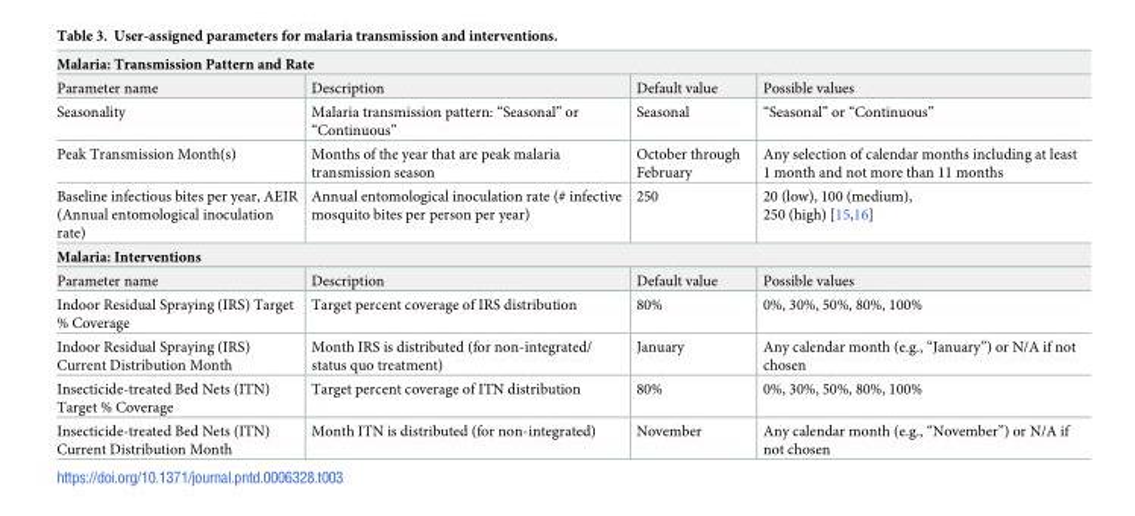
<table><tbody><tr><td colspan="4">Malaria: Transmission Pattern and Rate</td></tr><tr><td>Parameter name</td><td>Description</td><td>Default value</td><td>Possible values</td></tr><tr><td>Seasonality</td><td>Malaria transmission pattern: “Seasonal” or “Continuous”</td><td>Seasonal</td><td>“Seasonal” or “Continuous”</td></tr><tr><td>Peak Transmission Month(s)</td><td>Months of the year that are peak malaria transmission season</td><td>October through February</td><td>Any selection of calendar months including at least 1 month and not more than 11 months</td></tr><tr><td>Baseline infectious bites per year, AEIR (Annual entomological inoculation rate)</td><td>Annual entomological inoculation rate (# infective mosquito bites per person per year)</td><td>250</td><td>20 (low), 100 (medium), 250 (high) [15,16]</td></tr><tr><td colspan="4">Malaria: Interventions</td></tr><tr><td>Parameter name</td><td>Description</td><td>Default value</td><td>Possible values</td></tr><tr><td>Indoor Residual Spraying (IRS) Target % Coverage</td><td>Target percent coverage of IRS distribution</td><td>80%</td><td>0%, 30%, 50%, 80%, 100%</td></tr><tr><td>Indoor Residual Spraying (IRS) Current Distribution Month</td><td>Month IRS is distributed (for non-integrated/ status quo treatment)</td><td>January</td><td>Any calendar month (e.g., “January”) or N/A if not chosen</td></tr><tr><td>Insecticide-treated Bed Nets (ITN) Target % Coverage</td><td>Target percent coverage of ITN distribution</td><td>80%</td><td>0%, 30%, 50%, 80%, 100%</td></tr><tr><td>Insecticide-treated Bed Nets (ITN) Current Distribution Month</td><td>Month ITN is distributed (for non-integrated)</td><td>November</td><td>Any calendar month (e.g., “November”) or N/A if not chosen</td></tr></tbody></table>